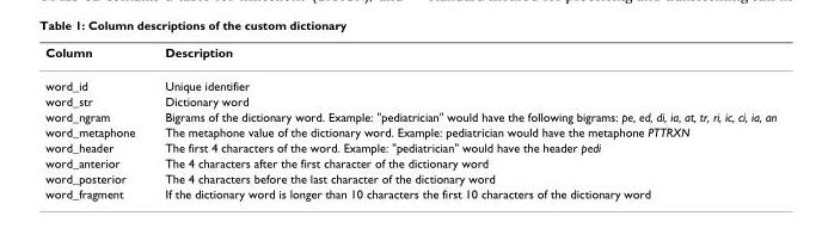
<table><thead><tr><td>Column</td><td>Description</td></tr></thead><tbody><tr><td>word_id</td><td>Unique identifier</td></tr><tr><td>word_str</td><td>Dictionary word</td></tr><tr><td>word_ngram</td><td>Bigrams of the dictionary word. Example: &quot;pediatrician&quot; would have the following bigrams: pe, ed, di, ia, at, tr, ri, ic, ci, ia, an</td></tr><tr><td>word_metaphone</td><td>The metaphone value of the dictionary word. Example: pediatrician would have the metaphone PTTRXN</td></tr><tr><td>word_header</td><td>The first 4 characters of the word. Example: &quot;pediatrician&quot; would have the header pedi</td></tr><tr><td>word_anterior</td><td>The 4 characters after the first character of the dictionary word</td></tr><tr><td>word_posterior</td><td>The 4 characters before the last character of the dictionary word</td></tr><tr><td>word_fragment</td><td>If the dictionary word is longer than 10 characters the first 10 characters of the dictionary word</td></tr></tbody></table>